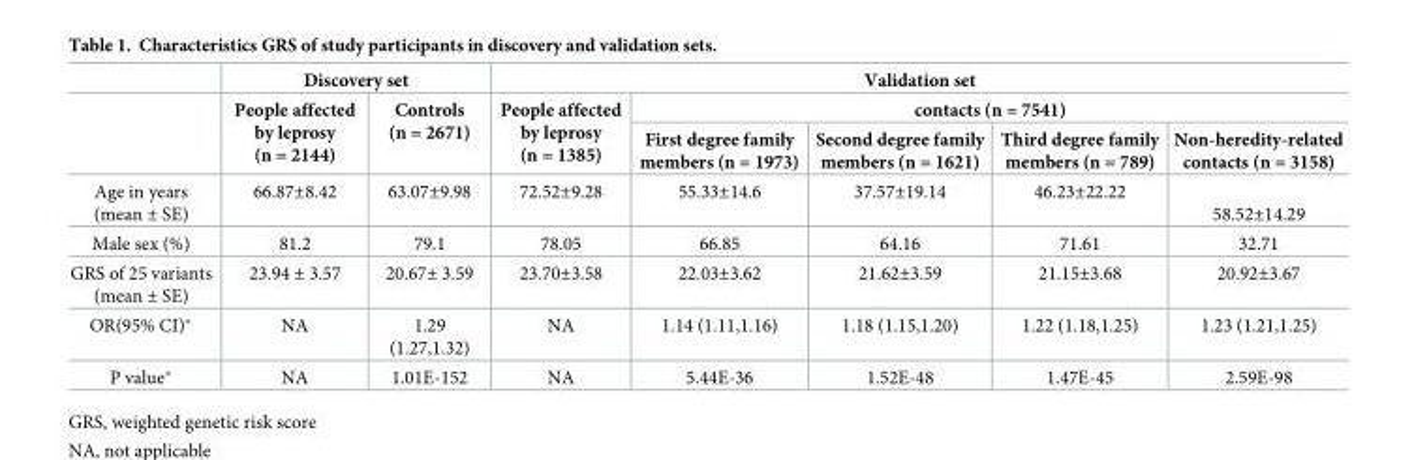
<table><thead><tr><td rowspan="3"></td><td colspan="2">Discovery set</td><td colspan="5">Validation set</td></tr><tr><td rowspan="2">People affected by leprosy (n = 2144)</td><td rowspan="2">Controls (n = 2671)</td><td rowspan="2">People affected by leprosy (n = 1385)</td><td colspan="4">contacts (n = 7541)</td></tr><tr><td>First degree family members (n = 1973)</td><td>Second degree family members (n = 1621)</td><td>Third degree family members (n = 789)</td><td>Non-heredity-related contacts (n = 3158)</td></tr></thead><tbody><tr><td>Age in years (mean ± SE)</td><td>66.87±8.42</td><td>63.07±9.98</td><td>72.52±9.28</td><td>55.33±14.6</td><td>37.57±19.14</td><td>46.23±22.22</td><td>58.52±14.29</td></tr><tr><td>Male sex (%)</td><td>81.2</td><td>79.1</td><td>78.05</td><td>66.85</td><td>64.16</td><td>71.61</td><td>32.71</td></tr><tr><td>GRS of 25 variants (mean ± SE)</td><td>23.94 ± 3.57</td><td>20.67± 3.59</td><td>23.70±3.58</td><td>22.03±3.62</td><td>21.62±3.59</td><td>21.15±3.68</td><td>20.92±3.67</td></tr><tr><td>OR(95% CI)*</td><td>NA</td><td>1.29 (1.27,1.32)</td><td>NA</td><td>1.14 (1.11,1.16)</td><td>1.18 (1.15,1.20)</td><td>1.22 (1.18,1.25)</td><td>1.23 (1.21,1.25)</td></tr><tr><td>P value*</td><td>NA</td><td>1.01E-152</td><td>NA</td><td>5.44E-36</td><td>1.52E-48</td><td>1.47E-45</td><td>2.59E-98</td></tr></tbody></table>